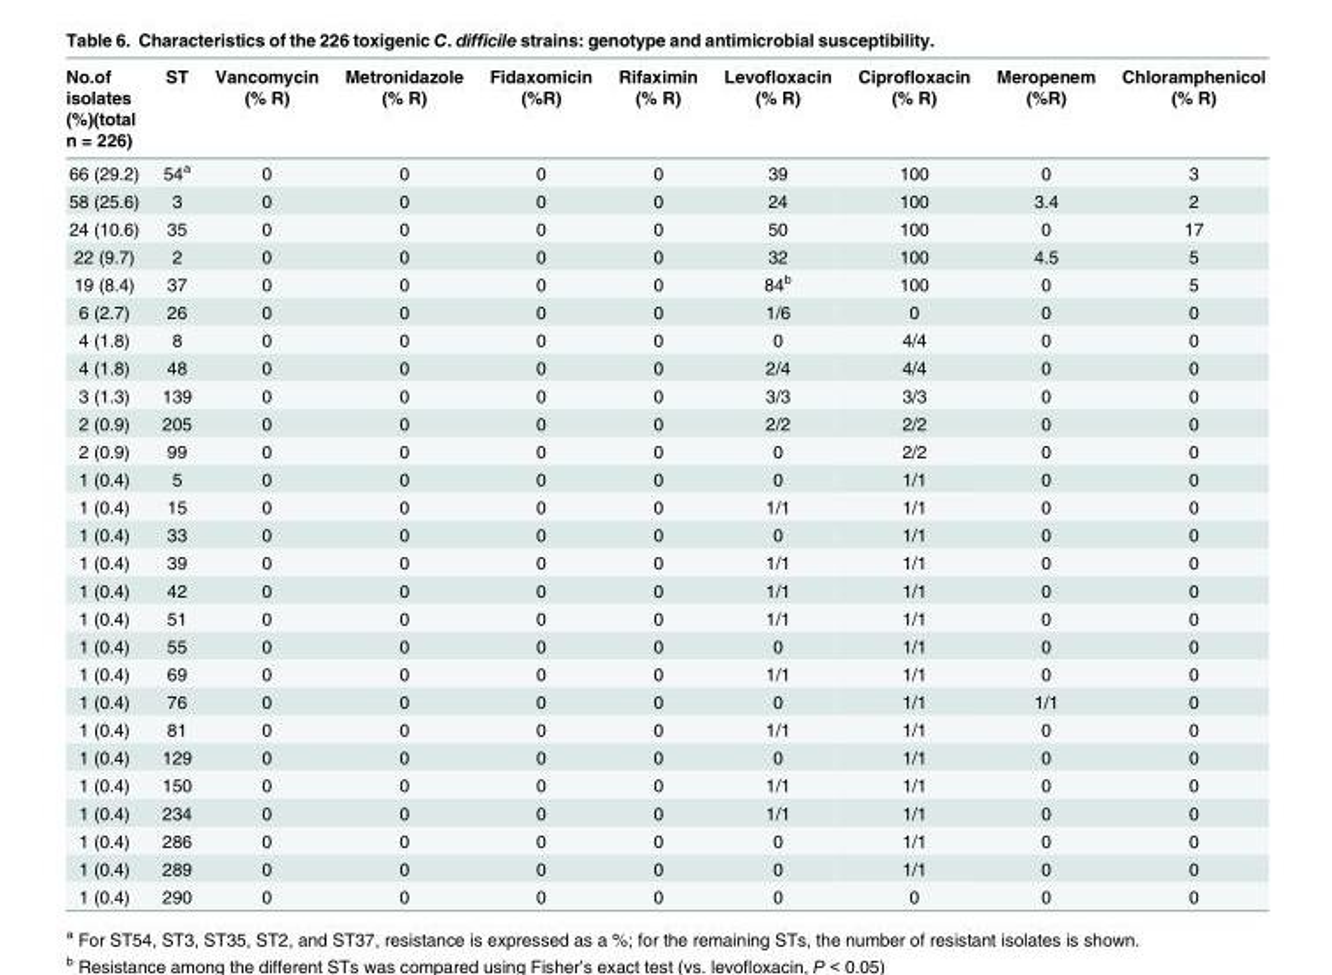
<table><thead><tr><td>No.of isolates (%)(total n = 226)</td><td>ST</td><td>Vancomycin (% R)</td><td>Metronidazole (% R)</td><td>Fidaxomicin (%R)</td><td>Rifaximin (% R)</td><td>Levofloxacin (% R)</td><td>Ciprofloxacin (% R)</td><td>Meropenem (%R)</td><td>Chloramphenicol (% R)</td></tr></thead><tbody><tr><td>66 (29.2)</td><td>54<sup>a</sup></td><td>0</td><td>0</td><td>0</td><td>0</td><td>39</td><td>100</td><td>0</td><td>3</td></tr><tr><td>58 (25.6)</td><td>3</td><td>0</td><td>0</td><td>0</td><td>0</td><td>24</td><td>100</td><td>3.4</td><td>2</td></tr><tr><td>24 (10.6)</td><td>35</td><td>0</td><td>0</td><td>0</td><td>0</td><td>50</td><td>100</td><td>0</td><td>17</td></tr><tr><td>22 (9.7)</td><td>2</td><td>0</td><td>0</td><td>0</td><td>0</td><td>32</td><td>100</td><td>4.5</td><td>5</td></tr><tr><td>19 (8.4)</td><td>37</td><td>0</td><td>0</td><td>0</td><td>0</td><td>84<sup>b</sup></td><td>100</td><td>0</td><td>5</td></tr><tr><td>6 (2.7)</td><td>26</td><td>0</td><td>0</td><td>0</td><td>0</td><td>1/6</td><td>0</td><td>0</td><td>0</td></tr><tr><td>4 (1.8)</td><td>8</td><td>0</td><td>0</td><td>0</td><td>0</td><td>0</td><td>4/4</td><td>0</td><td>0</td></tr><tr><td>4 (1.8)</td><td>48</td><td>0</td><td>0</td><td>0</td><td>0</td><td>2/4</td><td>4/4</td><td>0</td><td>0</td></tr><tr><td>3 (1.3)</td><td>139</td><td>0</td><td>0</td><td>0</td><td>0</td><td>3/3</td><td>3/3</td><td>0</td><td>0</td></tr><tr><td>2 (0.9)</td><td>205</td><td>0</td><td>0</td><td>0</td><td>0</td><td>2/2</td><td>2/2</td><td>0</td><td>0</td></tr><tr><td>2 (0.9)</td><td>99</td><td>0</td><td>0</td><td>0</td><td>0</td><td>0</td><td>2/2</td><td>0</td><td>0</td></tr><tr><td>1 (0.4)</td><td>5</td><td>0</td><td>0</td><td>0</td><td>0</td><td>0</td><td>1/1</td><td>0</td><td>0</td></tr><tr><td>1 (0.4)</td><td>15</td><td>0</td><td>0</td><td>0</td><td>0</td><td>1/1</td><td>1/1</td><td>0</td><td>0</td></tr><tr><td>1 (0.4)</td><td>33</td><td>0</td><td>0</td><td>0</td><td>0</td><td>0</td><td>1/1</td><td>0</td><td>0</td></tr><tr><td>1 (0.4)</td><td>39</td><td>0</td><td>0</td><td>0</td><td>0</td><td>1/1</td><td>1/1</td><td>0</td><td>0</td></tr><tr><td>1 (0.4)</td><td>42</td><td>0</td><td>0</td><td>0</td><td>0</td><td>1/1</td><td>1/1</td><td>0</td><td>0</td></tr><tr><td>1 (0.4)</td><td>51</td><td>0</td><td>0</td><td>0</td><td>0</td><td>1/1</td><td>1/1</td><td>0</td><td>0</td></tr><tr><td>1 (0.4)</td><td>55</td><td>0</td><td>0</td><td>0</td><td>0</td><td>0</td><td>1/1</td><td>0</td><td>0</td></tr><tr><td>1 (0.4)</td><td>69</td><td>0</td><td>0</td><td>0</td><td>0</td><td>1/1</td><td>1/1</td><td>0</td><td>0</td></tr><tr><td>1 (0.4)</td><td>76</td><td>0</td><td>0</td><td>0</td><td>0</td><td>0</td><td>1/1</td><td>1/1</td><td>0</td></tr><tr><td>1 (0.4)</td><td>81</td><td>0</td><td>0</td><td>0</td><td>0</td><td>1/1</td><td>1/1</td><td>0</td><td>0</td></tr><tr><td>1 (0.4)</td><td>129</td><td>0</td><td>0</td><td>0</td><td>0</td><td>0</td><td>1/1</td><td>0</td><td>0</td></tr><tr><td>1 (0.4)</td><td>150</td><td>0</td><td>0</td><td>0</td><td>0</td><td>1/1</td><td>1/1</td><td>0</td><td>0</td></tr><tr><td>1 (0.4)</td><td>234</td><td>0</td><td>0</td><td>0</td><td>0</td><td>1/1</td><td>1/1</td><td>0</td><td>0</td></tr><tr><td>1 (0.4)</td><td>286</td><td>0</td><td>0</td><td>0</td><td>0</td><td>0</td><td>1/1</td><td>0</td><td>0</td></tr><tr><td>1 (0.4)</td><td>289</td><td>0</td><td>0</td><td>0</td><td>0</td><td>0</td><td>1/1</td><td>0</td><td>0</td></tr><tr><td>1 (0.4)</td><td>290</td><td>0</td><td>0</td><td>0</td><td>0</td><td>0</td><td>0</td><td>0</td><td>0</td></tr></tbody></table>